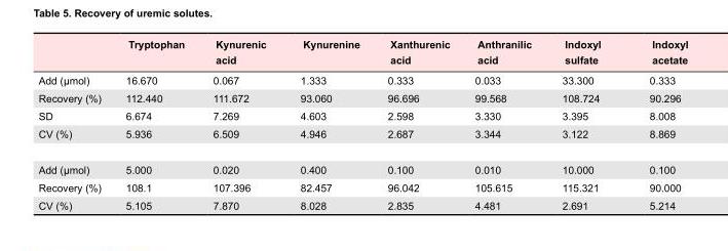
<table><thead><tr><td></td><td>Tryptophan</td><td>Kynurenic acid</td><td>Kynurenine</td><td>Xanthurenic acid</td><td>Anthranilic acid</td><td>Indoxyl sulfate</td><td>Indoxyl acetate</td></tr></thead><tbody><tr><td>Add (µmol)</td><td>16.670</td><td>0.067</td><td>1.333</td><td>0.333</td><td>0.033</td><td>33.300</td><td>0.333</td></tr><tr><td>Recovery (%)</td><td>112.440</td><td>111.672</td><td>93.060</td><td>96.696</td><td>99.568</td><td>108.724</td><td>90.296</td></tr><tr><td>SD</td><td>6.674</td><td>7.269</td><td>4.603</td><td>2.598</td><td>3.330</td><td>3.395</td><td>8.008</td></tr><tr><td>CV (%)</td><td>5.936</td><td>6.509</td><td>4.946</td><td>2.687</td><td>3.344</td><td>3.122</td><td>8.869</td></tr><tr><td>Add (µmol)</td><td>5.000</td><td>0.020</td><td>0.400</td><td>0.100</td><td>0.010</td><td>10.000</td><td>0.100</td></tr><tr><td>Recovery (%)</td><td>108.1</td><td>107.396</td><td>82.457</td><td>96.042</td><td>105.615</td><td>115.321</td><td>90.000</td></tr><tr><td>CV (%)</td><td>5.105</td><td>7.870</td><td>8.028</td><td>2.835</td><td>4.481</td><td>2.691</td><td>5.214</td></tr></tbody></table>